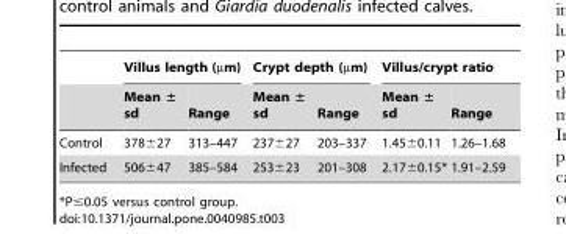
<table><thead><tr><td rowspan="2"></td><td colspan="2">Villus length (µm)</td><td colspan="2">Crypt depth (µm)</td><td colspan="2">Villus/crypt ratio</td></tr><tr><td>Mean ± sd</td><td>Range</td><td>Mean ± sd</td><td>Range</td><td>Mean ± sd</td><td>Range</td></tr></thead><tbody><tr><td>Control</td><td>378±27</td><td>313–447</td><td>237±27</td><td>203–337</td><td>1.45±0.11</td><td>1.26–1.68</td></tr><tr><td>Infected</td><td>506±47</td><td>385–584</td><td>253±23</td><td>201–308</td><td>2.17±0.15*</td><td>1.91–2.59</td></tr></tbody></table>